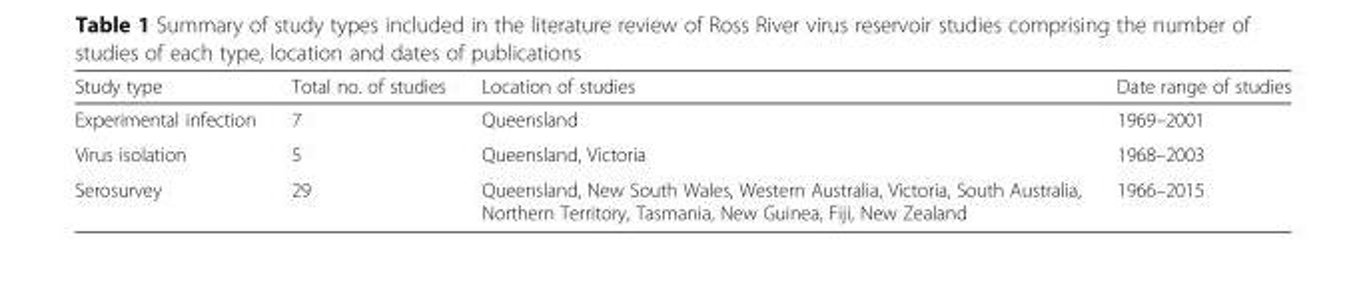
<table><thead><tr><td>Study type</td><td>Total no. of studies</td><td>Location of studies</td><td>Date range of studies</td></tr></thead><tbody><tr><td>Experimental infection</td><td>7</td><td>Queensland</td><td>1969–2001</td></tr><tr><td>Virus isolation</td><td>5</td><td>Queensland, Victoria</td><td>1968–2003</td></tr><tr><td>Serosurvey</td><td>29</td><td>Queensland, New South Wales, Western Australia, Victoria, South Australia, Northern Territory, Tasmania, New Guinea, Fiji, New Zealand</td><td>1966–2015</td></tr></tbody></table>